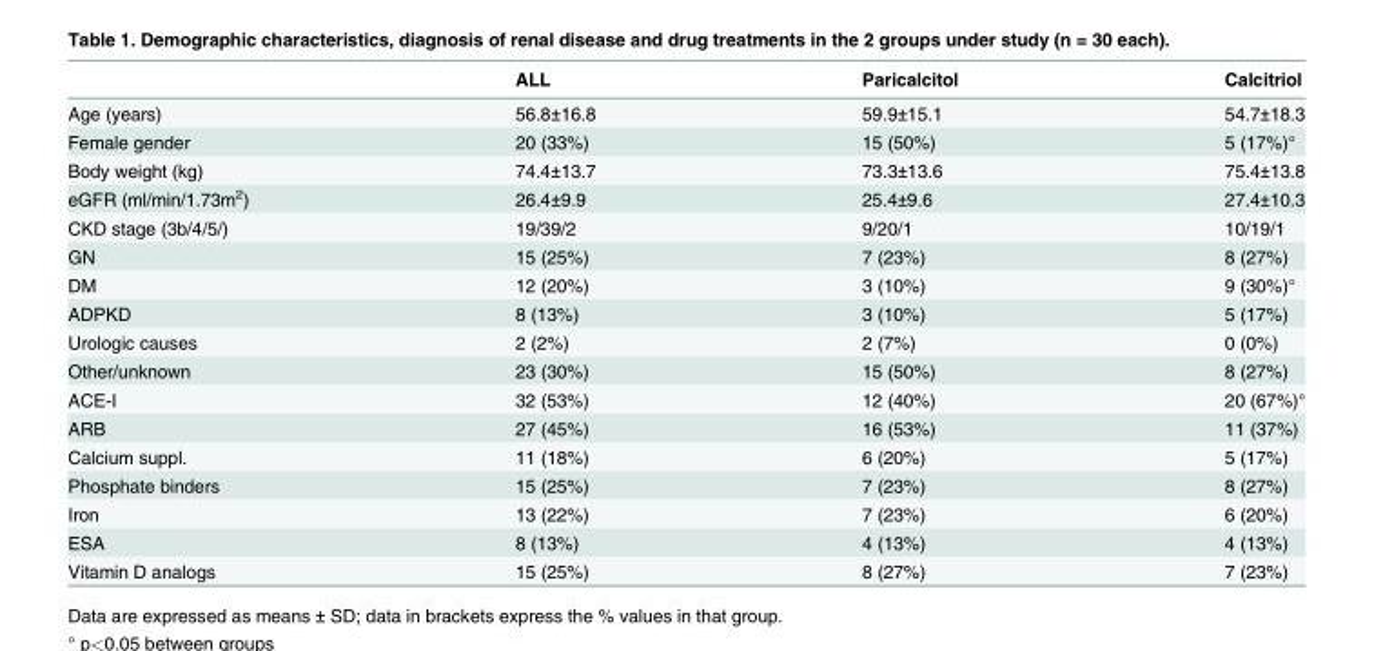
<table><thead><tr><td></td><td>ALL</td><td>Paricalcitol</td><td>Calcitriol</td></tr></thead><tbody><tr><td>Age (years)</td><td>56.8±16.8</td><td>59.9±15.1</td><td>54.7±18.3</td></tr><tr><td>Female gender</td><td>20 (33%)</td><td>15 (50%)</td><td>5 (17%)°</td></tr><tr><td>Body weight (kg)</td><td>74.4±13.7</td><td>73.3±13.6</td><td>75.4±13.8</td></tr><tr><td>eGFR (ml/min/1.73m<sup>2</sup>)</td><td>26.4±9.9</td><td>25.4±9.6</td><td>27.4±10.3</td></tr><tr><td>CKD stage (3b/4/5/)</td><td>19/39/2</td><td>9/20/1</td><td>10/19/1</td></tr><tr><td>GN</td><td>15 (25%)</td><td>7 (23%)</td><td>8 (27%)</td></tr><tr><td>DM</td><td>12 (20%)</td><td>3 (10%)</td><td>9 (30%)°</td></tr><tr><td>ADPKD</td><td>8 (13%)</td><td>3 (10%)</td><td>5 (17%)</td></tr><tr><td>Urologic causes</td><td>2 (2%)</td><td>2 (7%)</td><td>0 (0%)</td></tr><tr><td>Other/unknown</td><td>23 (30%)</td><td>15 (50%)</td><td>8 (27%)</td></tr><tr><td>ACE-I</td><td>32 (53%)</td><td>12 (40%)</td><td>20 (67%)°</td></tr><tr><td>ARB</td><td>27 (45%)</td><td>16 (53%)</td><td>11 (37%)</td></tr><tr><td>Calcium suppl.</td><td>11 (18%)</td><td>6 (20%)</td><td>5 (17%)</td></tr><tr><td>Phosphate binders</td><td>15 (25%)</td><td>7 (23%)</td><td>8 (27%)</td></tr><tr><td>Iron</td><td>13 (22%)</td><td>7 (23%)</td><td>6 (20%)</td></tr><tr><td>ESA</td><td>8 (13%)</td><td>4 (13%)</td><td>4 (13%)</td></tr><tr><td>Vitamin D analogs</td><td>15 (25%)</td><td>8 (27%)</td><td>7 (23%)</td></tr></tbody></table>